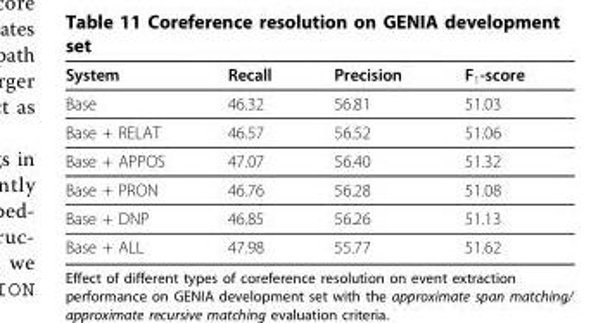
<table><thead><tr><td>System</td><td>Recall</td><td>Precision</td><td>F<sub>1</sub>-score</td></tr></thead><tbody><tr><td>Base</td><td>46.32</td><td>56.81</td><td>51.03</td></tr><tr><td>Base + RELAT</td><td>46.57</td><td>56.52</td><td>51.06</td></tr><tr><td>Base + APPOS</td><td>47.07</td><td>56.40</td><td>51.32</td></tr><tr><td>Base + PRON</td><td>46.76</td><td>56.28</td><td>51.08</td></tr><tr><td>Base + DNP</td><td>46.85</td><td>56.26</td><td>51.13</td></tr><tr><td>Base + ALL</td><td>47.98</td><td>55.77</td><td>51.62</td></tr></tbody></table>